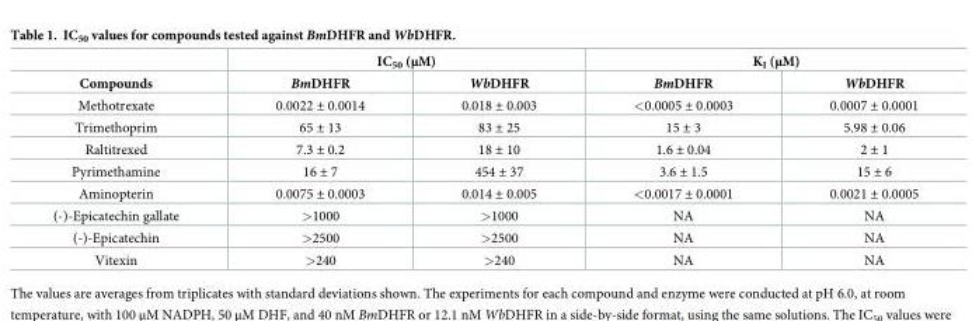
<table><thead><tr><td rowspan="2">Compounds</td><td colspan="2">IC<sub>50</sub> (μM)</td><td colspan="2">K<sub>I</sub> (μM)</td></tr><tr><td>BmDHFR</td><td>WbDHFR</td><td>BmDHFR</td><td>WbDHFR</td></tr></thead><tbody><tr><td>Methotrexate</td><td>0.0022 ± 0.0014</td><td>0.018 ± 0.003</td><td>&lt;0.0005 ± 0.0003</td><td>0.0007 ± 0.0001</td></tr><tr><td>Trimethoprim</td><td>65 ± 13</td><td>83 ± 25</td><td>15 ± 3</td><td>5.98 ± 0.06</td></tr><tr><td>Raltitrexed</td><td>7.3 ± 0.2</td><td>18 ± 10</td><td>1.6 ± 0.04</td><td>2 ± 1</td></tr><tr><td>Pyrimethamine</td><td>16 ± 7</td><td>454 ± 37</td><td>3.6 ± 1.5</td><td>15 ± 6</td></tr><tr><td>Aminopterin</td><td>0.0075 ± 0.0003</td><td>0.014 ± 0.005</td><td>&lt;0.0017 ± 0.0001</td><td>0.0021 ± 0.0005</td></tr><tr><td>(-)-Epicatechin gallate</td><td>&gt;1000</td><td>&gt;1000</td><td>NA</td><td>NA</td></tr><tr><td>(-)-Epicatechin</td><td>&gt;2500</td><td>&gt;2500</td><td>NA</td><td>NA</td></tr><tr><td>Vitexin</td><td>&gt;240</td><td>&gt;240</td><td>NA</td><td>NA</td></tr></tbody></table>